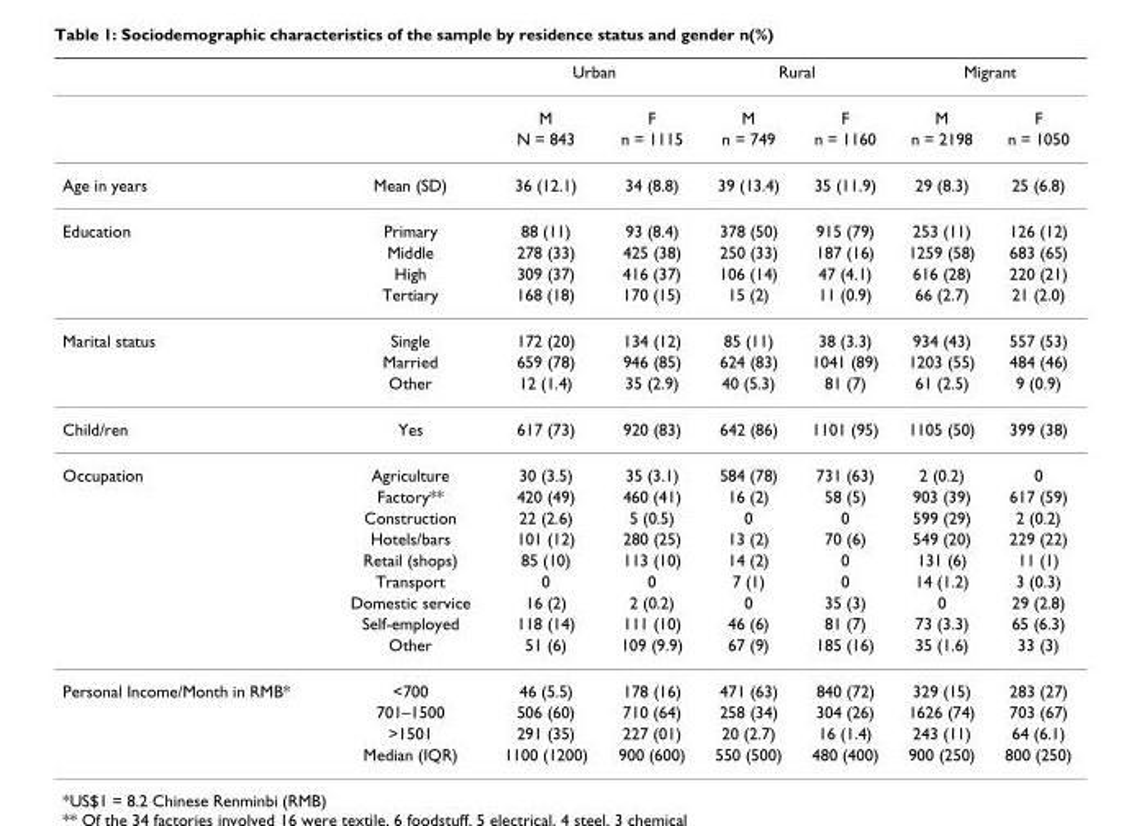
<table><thead><tr><td rowspan="2"></td><td rowspan="2"></td><td colspan="2">Urban</td><td colspan="2">Rural</td><td colspan="2">Migrant</td></tr><tr><td>M</td><td>F</td><td>M</td><td>F</td><td>M</td><td>F</td></tr></thead><tbody><tr><td></td><td></td><td>N = 843</td><td>n = 1115</td><td>n = 749</td><td>n = 1160</td><td>n = 2198</td><td>n = 1050</td></tr><tr><td>Age in years</td><td>Mean (SD)</td><td>36 (12.1)</td><td>34 (8.8)</td><td>39 (13.4)</td><td>35 (11.9)</td><td>29 (8.3)</td><td>25 (6.8)</td></tr><tr><td rowspan="4">Education</td><td>Primary</td><td>88 (11)</td><td>93 (8.4)</td><td>378 (50)</td><td>915 (79)</td><td>253 (11)</td><td>126 (12)</td></tr><tr><td>Middle</td><td>278 (33)</td><td>425 (38)</td><td>250 (33)</td><td>187 (16)</td><td>1259 (58)</td><td>683 (65)</td></tr><tr><td>High</td><td>309 (37)</td><td>416 (37)</td><td>106 (14)</td><td>47 (4.1)</td><td>616 (28)</td><td>220 (21)</td></tr><tr><td>Tertiary</td><td>168 (18)</td><td>170 (15)</td><td>15 (2)</td><td>11 (0.9)</td><td>66 (2.7)</td><td>21 (2.0)</td></tr><tr><td rowspan="3">Marital status</td><td>Single</td><td>172 (20)</td><td>134 (12)</td><td>85 (11)</td><td>38 (3.3)</td><td>934 (43)</td><td>557 (53)</td></tr><tr><td>Married</td><td>659 (78)</td><td>946 (85)</td><td>624 (83)</td><td>1041 (89)</td><td>1203 (55)</td><td>484 (46)</td></tr><tr><td>Other</td><td>12 (1.4)</td><td>35 (2.9)</td><td>40 (5.3)</td><td>81 (7)</td><td>61 (2.5)</td><td>9 (0.9)</td></tr><tr><td>Child/ren</td><td>Yes</td><td>617 (73)</td><td>920 (83)</td><td>642 (86)</td><td>1101 (95)</td><td>1105 (50)</td><td>399 (38)</td></tr><tr><td rowspan="9">Occupation</td><td>Agriculture</td><td>30 (3.5)</td><td>35 (3.1)</td><td>584 (78)</td><td>731 (63)</td><td>2 (0.2)</td><td>0</td></tr><tr><td>Factory**</td><td>420 (49)</td><td>460 (41)</td><td>16 (2)</td><td>58 (5)</td><td>903 (39)</td><td>617 (59)</td></tr><tr><td>Construction</td><td>22 (2.6)</td><td>5 (0.5)</td><td>0</td><td>0</td><td>599 (29)</td><td>2 (0.2)</td></tr><tr><td>Hotels/bars</td><td>101 (12)</td><td>280 (25)</td><td>13 (2)</td><td>70 (6)</td><td>549 (20)</td><td>229 (22)</td></tr><tr><td>Retail (shops)</td><td>85 (10)</td><td>113 (10)</td><td>14 (2)</td><td>0</td><td>131 (6)</td><td>11 (1)</td></tr><tr><td>Transport</td><td>0</td><td>0</td><td>7 (1)</td><td>0</td><td>14 (1.2)</td><td>3 (0.3)</td></tr><tr><td>Domestic service</td><td>16 (2)</td><td>2 (0.2)</td><td>0</td><td>35 (3)</td><td>0</td><td>29 (2.8)</td></tr><tr><td>Self-employed</td><td>118 (14)</td><td>111 (10)</td><td>46 (6)</td><td>81 (7)</td><td>73 (3.3)</td><td>65 (6.3)</td></tr><tr><td>Other</td><td>51 (6)</td><td>109 (9.9)</td><td>67 (9)</td><td>185 (16)</td><td>35 (1.6)</td><td>33 (3)</td></tr><tr><td rowspan="4">Personal Income/Month in RMB*</td><td>&lt;700</td><td>46 (5.5)</td><td>178 (16)</td><td>471 (63)</td><td>840 (72)</td><td>329 (15)</td><td>283 (27)</td></tr><tr><td>701–1500</td><td>506 (60)</td><td>710 (64)</td><td>258 (34)</td><td>304 (26)</td><td>1626 (74)</td><td>703 (67)</td></tr><tr><td>&gt;1501</td><td>291 (35)</td><td>227 (01)</td><td>20 (2.7)</td><td>16 (1.4)</td><td>243 (11)</td><td>64 (6.1)</td></tr><tr><td>Median (IQR)</td><td>1100 (1200)</td><td>900 (600)</td><td>550 (500)</td><td>480 (400)</td><td>900 (250)</td><td>800 (250)</td></tr></tbody></table>